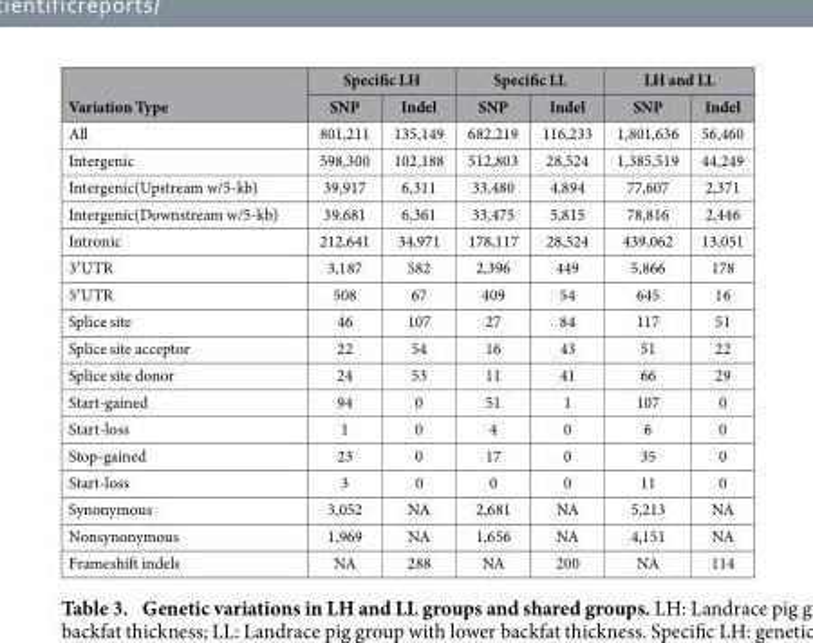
<table><thead><tr><td rowspan="2">Variation Type</td><td colspan="2">Specific LH</td><td colspan="2">Specific LL</td><td colspan="2">LH and LL</td></tr><tr><td>SNP</td><td>Indel</td><td>SNP</td><td>Indel</td><td>SNP</td><td>Indel</td></tr></thead><tbody><tr><td>All</td><td>801,211</td><td>135,149</td><td>682,219</td><td>116,233</td><td>1,801,636</td><td>56,460</td></tr><tr><td>Intergenic</td><td>598,300</td><td>102,188</td><td>512,803</td><td>28,524</td><td>1,385,519</td><td>44,249</td></tr><tr><td>Intergenic(Upstream w/5-kb)</td><td>39,917</td><td>6,311</td><td>33,480</td><td>4,894</td><td>77,607</td><td>2,371</td></tr><tr><td>Intergenic(Downstream w/5-kb)</td><td>39,681</td><td>6,361</td><td>33,475</td><td>5,815</td><td>78,816</td><td>2,446</td></tr><tr><td>Intronic</td><td>212,641</td><td>34,971</td><td>178,117</td><td>28,524</td><td>439,062</td><td>13,051</td></tr><tr><td>3′ UTR</td><td>3,187</td><td>582</td><td>2,396</td><td>449</td><td>5,866</td><td>178</td></tr><tr><td>5′ UTR</td><td>508</td><td>67</td><td>409</td><td>54</td><td>645</td><td>16</td></tr><tr><td>Splice site</td><td>46</td><td>107</td><td>27</td><td>84</td><td>117</td><td>51</td></tr><tr><td>Splice site acceptor</td><td>22</td><td>54</td><td>16</td><td>43</td><td>51</td><td>22</td></tr><tr><td>Splice site donor</td><td>24</td><td>53</td><td>11</td><td>41</td><td>66</td><td>29</td></tr><tr><td>Start-gained</td><td>94</td><td>0</td><td>51</td><td>1</td><td>107</td><td>0</td></tr><tr><td>Start-loss</td><td>1</td><td>0</td><td>4</td><td>0</td><td>6</td><td>0</td></tr><tr><td>Stop-gained</td><td>23</td><td>0</td><td>17</td><td>0</td><td>35</td><td>0</td></tr><tr><td>Start-loss</td><td>3</td><td>0</td><td>0</td><td>0</td><td>11</td><td>0</td></tr><tr><td>Synonymous</td><td>3,052</td><td>NA</td><td>2,681</td><td>NA</td><td>5,213</td><td>NA</td></tr><tr><td>Nonsynonymous</td><td>1,969</td><td>NA</td><td>1,656</td><td>NA</td><td>4,151</td><td>NA</td></tr><tr><td>Frameshift indels</td><td>NA</td><td>288</td><td>NA</td><td>200</td><td>NA</td><td>114</td></tr></tbody></table>